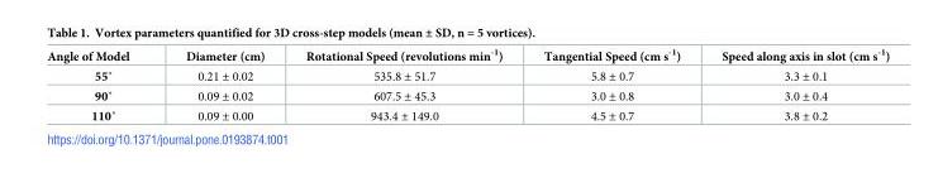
<table><thead><tr><td>Angle of Model</td><td>Diameter (cm)</td><td>Rotational Speed (revolutions min<sup>-1</sup>)</td><td>Tangential Speed (cm s<sup>-1</sup>)</td><td>Speed along axis in slot (cm s<sup>-1</sup>)</td></tr></thead><tbody><tr><td>55˚</td><td>0.21 ± 0.02</td><td>535.8 ± 51.7</td><td>5.8 ± 0.7</td><td>3.3 ± 0.1</td></tr><tr><td>90˚</td><td>0.09 ± 0.02</td><td>607.5 ± 45.3</td><td>3.0 ± 0.8</td><td>3.0 ± 0.4</td></tr><tr><td>110˚</td><td>0.09 ± 0.00</td><td>943.4 ± 149.0</td><td>4.5 ± 0.7</td><td>3.8 ± 0.2</td></tr></tbody></table>